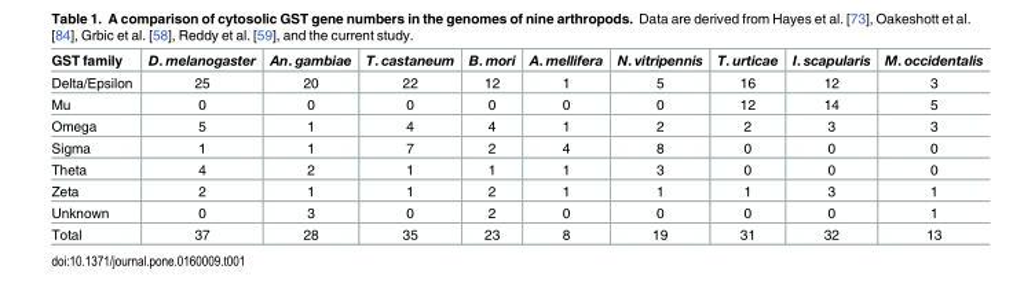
<table><thead><tr><td>GST family</td><td>D. melanogaster</td><td>An. gambiae</td><td>T. castaneum</td><td>B. mori</td><td>A. mellifera</td><td>N. vitripennis</td><td>T. urticae</td><td>I. scapularis</td><td>M. occidentalis</td></tr></thead><tbody><tr><td>Delta/Epsilon</td><td>25</td><td>20</td><td>22</td><td>12</td><td>1</td><td>5</td><td>16</td><td>12</td><td>3</td></tr><tr><td>Mu</td><td>0</td><td>0</td><td>0</td><td>0</td><td>0</td><td>0</td><td>12</td><td>14</td><td>5</td></tr><tr><td>Omega</td><td>5</td><td>1</td><td>4</td><td>4</td><td>1</td><td>2</td><td>2</td><td>3</td><td>3</td></tr><tr><td>Sigma</td><td>1</td><td>1</td><td>7</td><td>2</td><td>4</td><td>8</td><td>0</td><td>0</td><td>0</td></tr><tr><td>Theta</td><td>4</td><td>2</td><td>1</td><td>1</td><td>1</td><td>3</td><td>0</td><td>0</td><td>0</td></tr><tr><td>Zeta</td><td>2</td><td>1</td><td>1</td><td>2</td><td>1</td><td>1</td><td>1</td><td>3</td><td>1</td></tr><tr><td>Unknown</td><td>0</td><td>3</td><td>0</td><td>2</td><td>0</td><td>0</td><td>0</td><td>0</td><td>1</td></tr><tr><td>Total</td><td>37</td><td>28</td><td>35</td><td>23</td><td>8</td><td>19</td><td>31</td><td>32</td><td>13</td></tr></tbody></table>